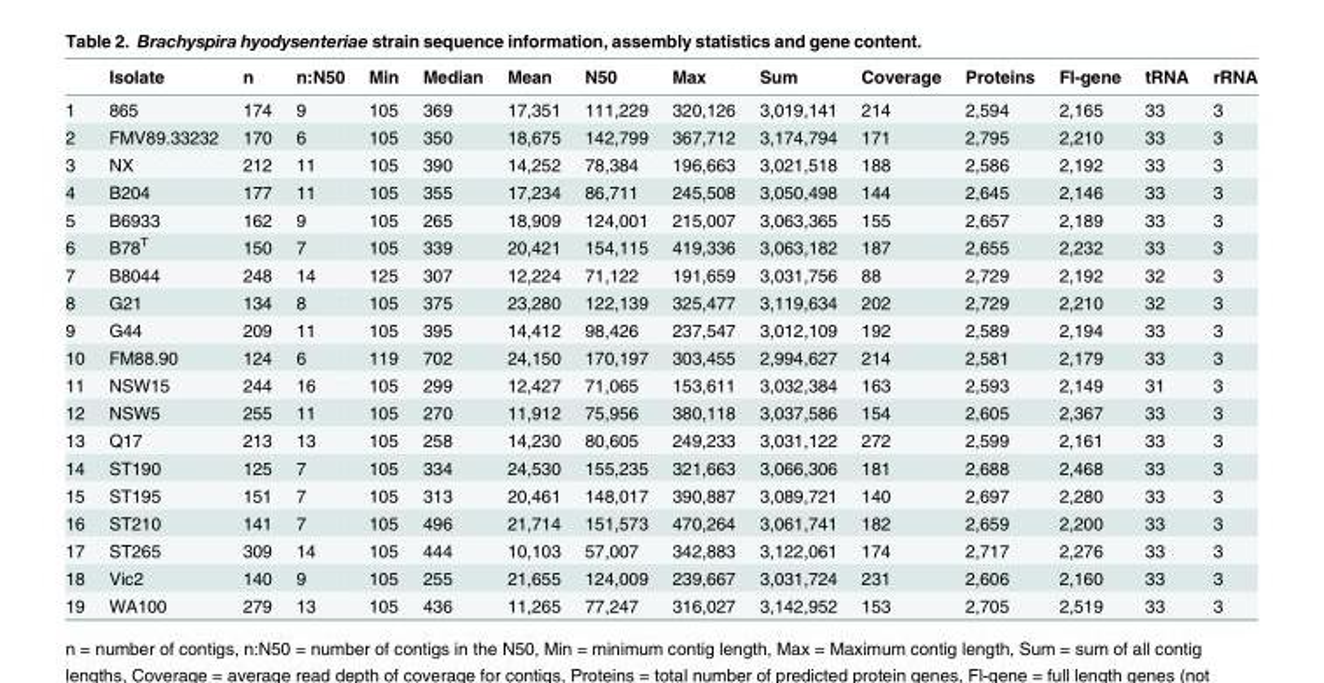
<table><thead><tr><td></td><td>Isolate</td><td>n</td><td>n:N50</td><td>Min</td><td>Median</td><td>Mean</td><td>N50</td><td>Max</td><td>Sum</td><td>Coverage</td><td>Proteins</td><td>Fl-gene</td><td>tRNA</td><td>rRNA</td></tr></thead><tbody><tr><td>1</td><td>865</td><td>174</td><td>9</td><td>105</td><td>369</td><td>17,351</td><td>111,229</td><td>320,126</td><td>3,019,141</td><td>214</td><td>2,594</td><td>2,165</td><td>33</td><td>3</td></tr><tr><td>2</td><td>FMV89.33232</td><td>170</td><td>6</td><td>105</td><td>350</td><td>18,675</td><td>142,799</td><td>367,712</td><td>3,174,794</td><td>171</td><td>2,795</td><td>2,210</td><td>33</td><td>3</td></tr><tr><td>3</td><td>NX</td><td>212</td><td>11</td><td>105</td><td>390</td><td>14,252</td><td>78,384</td><td>196,663</td><td>3,021,518</td><td>188</td><td>2,586</td><td>2,192</td><td>33</td><td>3</td></tr><tr><td>4</td><td>B204</td><td>177</td><td>11</td><td>105</td><td>355</td><td>17,234</td><td>86,711</td><td>245,508</td><td>3,050,498</td><td>144</td><td>2,645</td><td>2,146</td><td>33</td><td>3</td></tr><tr><td>5</td><td>B6933</td><td>162</td><td>9</td><td>105</td><td>265</td><td>18,909</td><td>124,001</td><td>215,007</td><td>3,063,365</td><td>155</td><td>2,657</td><td>2,189</td><td>33</td><td>3</td></tr><tr><td>6</td><td>B78<sup>T</sup></td><td>150</td><td>7</td><td>105</td><td>339</td><td>20,421</td><td>154,115</td><td>419,336</td><td>3,063,182</td><td>187</td><td>2,655</td><td>2,232</td><td>33</td><td>3</td></tr><tr><td>7</td><td>B8044</td><td>248</td><td>14</td><td>125</td><td>307</td><td>12,224</td><td>71,122</td><td>191,659</td><td>3,031,756</td><td>88</td><td>2,729</td><td>2,192</td><td>32</td><td>3</td></tr><tr><td>8</td><td>G21</td><td>134</td><td>8</td><td>105</td><td>375</td><td>23,280</td><td>122,139</td><td>325,477</td><td>3,119,634</td><td>202</td><td>2,729</td><td>2,210</td><td>32</td><td>3</td></tr><tr><td>9</td><td>G44</td><td>209</td><td>11</td><td>105</td><td>395</td><td>14,412</td><td>98,426</td><td>237,547</td><td>3,012,109</td><td>192</td><td>2,589</td><td>2,194</td><td>33</td><td>3</td></tr><tr><td>10</td><td>FM88.90</td><td>124</td><td>6</td><td>119</td><td>702</td><td>24,150</td><td>170,197</td><td>303,455</td><td>2,994,627</td><td>214</td><td>2,581</td><td>2,179</td><td>33</td><td>3</td></tr><tr><td>11</td><td>NSW15</td><td>244</td><td>16</td><td>105</td><td>299</td><td>12,427</td><td>71,065</td><td>153,611</td><td>3,032,384</td><td>163</td><td>2,593</td><td>2,149</td><td>31</td><td>3</td></tr><tr><td>12</td><td>NSW5</td><td>255</td><td>11</td><td>105</td><td>270</td><td>11,912</td><td>75,956</td><td>380,118</td><td>3,037,586</td><td>154</td><td>2,605</td><td>2,367</td><td>33</td><td>3</td></tr><tr><td>13</td><td>Q17</td><td>213</td><td>13</td><td>105</td><td>258</td><td>14,230</td><td>80,605</td><td>249,233</td><td>3,031,122</td><td>272</td><td>2,599</td><td>2,161</td><td>33</td><td>3</td></tr><tr><td>14</td><td>ST190</td><td>125</td><td>7</td><td>105</td><td>334</td><td>24,530</td><td>155,235</td><td>321,663</td><td>3,066,306</td><td>181</td><td>2,688</td><td>2,468</td><td>33</td><td>3</td></tr><tr><td>15</td><td>ST195</td><td>151</td><td>7</td><td>105</td><td>313</td><td>20,461</td><td>148,017</td><td>390,887</td><td>3,089,721</td><td>140</td><td>2,697</td><td>2,280</td><td>33</td><td>3</td></tr><tr><td>16</td><td>ST210</td><td>141</td><td>7</td><td>105</td><td>496</td><td>21,714</td><td>151,573</td><td>470,264</td><td>3,061,741</td><td>182</td><td>2,659</td><td>2,200</td><td>33</td><td>3</td></tr><tr><td>17</td><td>ST265</td><td>309</td><td>14</td><td>105</td><td>444</td><td>10,103</td><td>57,007</td><td>342,883</td><td>3,122,061</td><td>174</td><td>2,717</td><td>2,276</td><td>33</td><td>3</td></tr><tr><td>18</td><td>Vic2</td><td>140</td><td>9</td><td>105</td><td>255</td><td>21,655</td><td>124,009</td><td>239,667</td><td>3,031,724</td><td>231</td><td>2,606</td><td>2,160</td><td>33</td><td>3</td></tr><tr><td>19</td><td>WA100</td><td>279</td><td>13</td><td>105</td><td>436</td><td>11,265</td><td>77,247</td><td>316,027</td><td>3,142,952</td><td>153</td><td>2,705</td><td>2,519</td><td>33</td><td>3</td></tr></tbody></table>